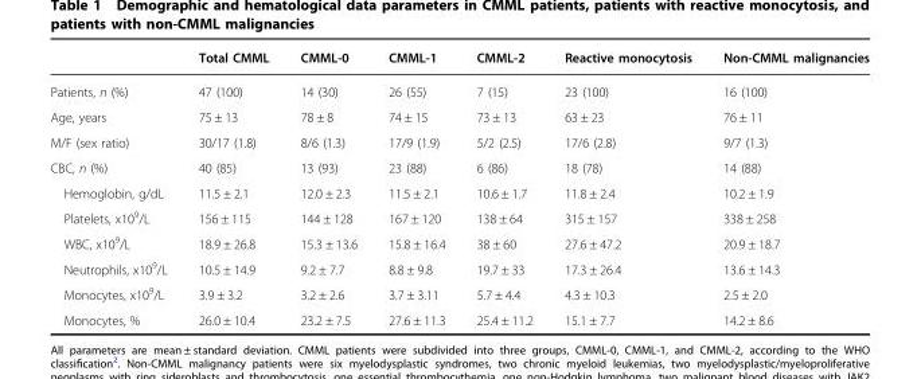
<table><thead><tr><td></td><td>Total CMML</td><td>CMML-0</td><td>CMML-1</td><td>CMML-2</td><td>Reactive monocytosis</td><td>Non-CMML malignancies</td></tr></thead><tbody><tr><td>Patients, n (%)</td><td>47 (100)</td><td>14 (30)</td><td>26 (55)</td><td>7 (15)</td><td>23 (100)</td><td>16 (100)</td></tr><tr><td>Age, years</td><td>75 ± 13</td><td>78 ± 8</td><td>74 ± 15</td><td>73 ± 13</td><td>63 ± 23</td><td>76 ± 11</td></tr><tr><td>M/F (sex ratio)</td><td>30/17 (1.8)</td><td>8/6 (1.3)</td><td>17/9 (1.9)</td><td>5/2 (2.5)</td><td>17/6 (2.8)</td><td>9/7 (1.3)</td></tr><tr><td>CBC, n (%)</td><td>40 (85)</td><td>13 (93)</td><td>23 (88)</td><td>6 (86)</td><td>18 (78)</td><td>14 (88)</td></tr><tr><td>Hemoglobin, g/dL</td><td>11.5 ± 2.1</td><td>12.0 ± 2.3</td><td>11.5 ± 2.1</td><td>10.6 ± 1.7</td><td>11.8 ± 2.4</td><td>10.2 ± 1.9</td></tr><tr><td>Platelets, x10<sup>9</sup>/L</td><td>156 ± 115</td><td>144 ± 128</td><td>167 ± 120</td><td>138 ± 64</td><td>315 ± 157</td><td>338 ± 258</td></tr><tr><td>WBC, x10<sup>9</sup>/L</td><td>18.9 ± 26.8</td><td>15.3 ± 13.6</td><td>15.8 ± 16.4</td><td>38 ± 60</td><td>27.6 ± 47.2</td><td>20.9 ± 18.7</td></tr><tr><td>Neutrophils, x10<sup>9</sup>/L</td><td>10.5 ± 14.9</td><td>9.2 ± 7.7</td><td>8.8 ± 9.8</td><td>19.7 ± 33</td><td>17.3 ± 26.4</td><td>13.6 ± 14.3</td></tr><tr><td>Monocytes, x10<sup>9</sup>/L</td><td>3.9 ± 3.2</td><td>3.2 ± 2.6</td><td>3.7 ± 3.11</td><td>5.7 ± 4.4</td><td>4.3 ± 10.3</td><td>2.5 ± 2.0</td></tr><tr><td>Monocytes, %</td><td>26.0 ± 10.4</td><td>23.2 ± 7.5</td><td>27.6 ± 11.3</td><td>25.4 ± 11.2</td><td>15.1 ± 7.7</td><td>14.2 ± 8.6</td></tr></tbody></table>